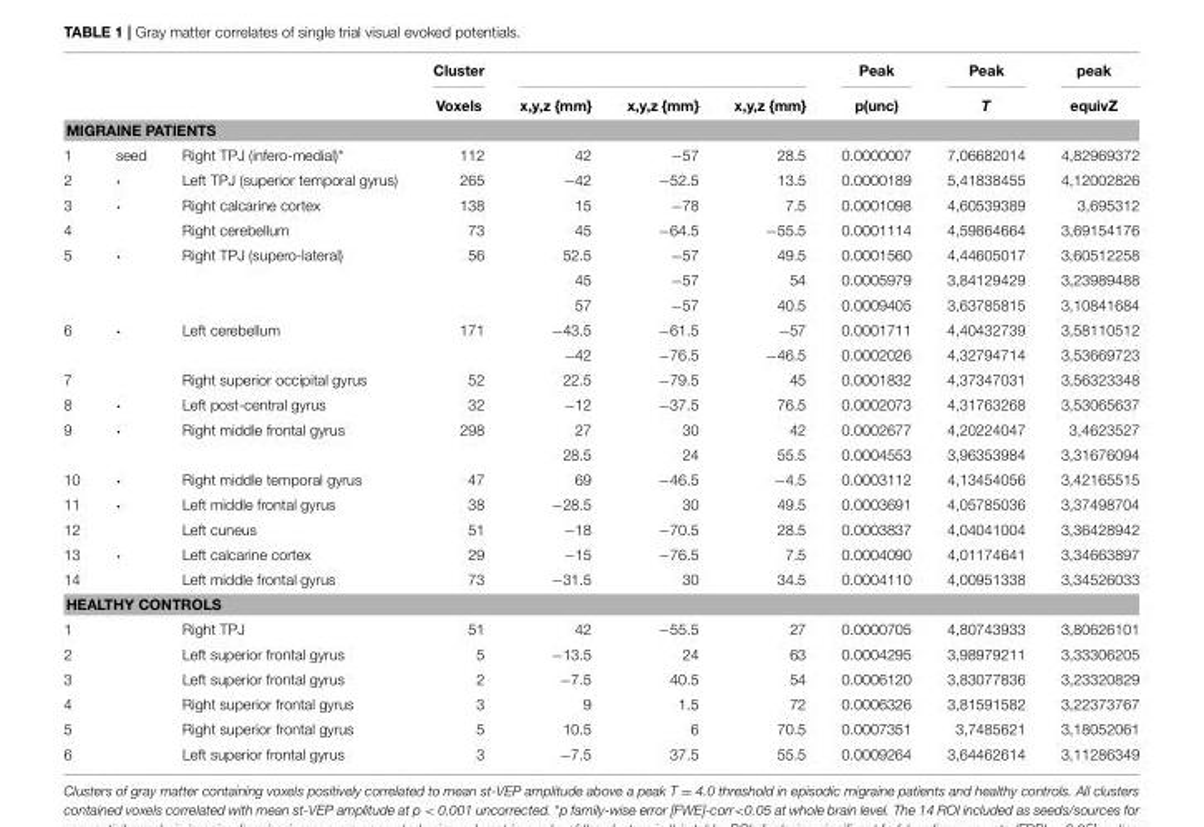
<table><thead><tr><td></td><td></td><td></td><td>Cluster</td><td></td><td></td><td></td><td>Peak</td><td>Peak</td><td>peak</td></tr></thead><tbody><tr><td></td><td></td><td></td><td>Voxels</td><td>x,y,z {mm}</td><td>x,y,z {mm}</td><td>x,y,z {mm}</td><td>p(unc)</td><td>T</td><td>equivZ</td></tr><tr><td colspan="10">MIGRAINE PATIENTS</td></tr><tr><td>1</td><td>seed</td><td>Right TPJ (infero-medial)*</td><td>112</td><td>42</td><td>−57</td><td>28.5</td><td>0.0000007</td><td>7,06682014</td><td>4,82969372</td></tr><tr><td>2</td><td>·</td><td>Left TPJ (superior temporal gyrus)</td><td>265</td><td>−42</td><td>−52.5</td><td>13.5</td><td>0.0000189</td><td>5,41838455</td><td>4,12002826</td></tr><tr><td>3</td><td>·</td><td>Right calcarine cortex</td><td>138</td><td>15</td><td>−78</td><td>7.5</td><td>0.0001098</td><td>4,60539389</td><td>3,695312</td></tr><tr><td>4</td><td></td><td>Right cerebellum</td><td>73</td><td>45</td><td>−64.5</td><td>−55.5</td><td>0.0001114</td><td>4,59864664</td><td>3,69154176</td></tr><tr><td rowspan="3">5</td><td>·</td><td>Right TPJ (supero-lateral)</td><td>56</td><td>52.5</td><td>−57</td><td>49.5</td><td>0.0001560</td><td>4,44605017</td><td>3,60512258</td></tr><tr><td></td><td></td><td></td><td>45</td><td>−57</td><td>54</td><td>0.0005979</td><td>3,84129429</td><td>3,23989488</td></tr><tr><td></td><td></td><td></td><td>57</td><td>−57</td><td>40.5</td><td>0.0009405</td><td>3,63785815</td><td>3,10841684</td></tr><tr><td rowspan="2">6</td><td>·</td><td>Left cerebellum</td><td>171</td><td>−43.5</td><td>−61.5</td><td>−57</td><td>0.0001711</td><td>4,40432739</td><td>3,58110512</td></tr><tr><td></td><td></td><td></td><td>−42</td><td>−76.5</td><td>−46.5</td><td>0.0002026</td><td>4,32794714</td><td>3,53669723</td></tr><tr><td>7</td><td></td><td>Right superior occipital gyrus</td><td>52</td><td>22.5</td><td>−79.5</td><td>45</td><td>0.0001832</td><td>4,37347031</td><td>3,56323348</td></tr><tr><td>8</td><td>·</td><td>Left post-central gyrus</td><td>32</td><td>−12</td><td>−37.5</td><td>76.5</td><td>0.0002073</td><td>4,31763268</td><td>3,53065637</td></tr><tr><td rowspan="2">9</td><td>·</td><td>Right middle frontal gyrus</td><td>298</td><td>27</td><td>30</td><td>42</td><td>0.0002677</td><td>4,20224047</td><td>3,4623527</td></tr><tr><td></td><td></td><td></td><td>28.5</td><td>24</td><td>55.5</td><td>0.0004553</td><td>3,96353984</td><td>3,31676094</td></tr><tr><td>10</td><td>·</td><td>Right middle temporal gyrus</td><td>47</td><td>69</td><td>−46.5</td><td>−4.5</td><td>0.0003112</td><td>4,13454056</td><td>3,42165515</td></tr><tr><td>11</td><td>·</td><td>Left middle frontal gyrus</td><td>38</td><td>−28.5</td><td>30</td><td>49.5</td><td>0.0003691</td><td>4,05785036</td><td>3,37498704</td></tr><tr><td>12</td><td></td><td>Left cuneus</td><td>51</td><td>−18</td><td>−70.5</td><td>28.5</td><td>0.0003837</td><td>4,04041004</td><td>3,36428942</td></tr><tr><td>13</td><td>·</td><td>Left calcarine cortex</td><td>29</td><td>−15</td><td>−76.5</td><td>7.5</td><td>0.0004090</td><td>4,01174641</td><td>3,34663897</td></tr><tr><td>14</td><td></td><td>Left middle frontal gyrus</td><td>73</td><td>−31.5</td><td>30</td><td>34.5</td><td>0.0004110</td><td>4,00951338</td><td>3,34526033</td></tr><tr><td colspan="10">HEALTHY CONTROLS</td></tr><tr><td>1</td><td></td><td>Right TPJ</td><td>51</td><td>42</td><td>−55.5</td><td>27</td><td>0.0000705</td><td>4,80743933</td><td>3,80626101</td></tr><tr><td>2</td><td></td><td>Left superior frontal gyrus</td><td>5</td><td>−13.5</td><td>24</td><td>63</td><td>0.0004295</td><td>3,98979211</td><td>3,33306205</td></tr><tr><td>3</td><td></td><td>Left superior frontal gyrus</td><td>2</td><td>−7.5</td><td>40.5</td><td>54</td><td>0.0006120</td><td>3,83077836</td><td>3,23320829</td></tr><tr><td>4</td><td></td><td>Right superior frontal gyrus</td><td>3</td><td>9</td><td>1.5</td><td>72</td><td>0.0006326</td><td>3,81591582</td><td>3,22373767</td></tr><tr><td>5</td><td></td><td>Right superior frontal gyrus</td><td>5</td><td>10.5</td><td>6</td><td>70.5</td><td>0.0007351</td><td>3,7485621</td><td>3,18052061</td></tr><tr><td>6</td><td></td><td>Left superior frontal gyrus</td><td>3</td><td>−7.5</td><td>37.5</td><td>55.5</td><td>0.0009264</td><td>3,64462614</td><td>3,11286349</td></tr></tbody></table>